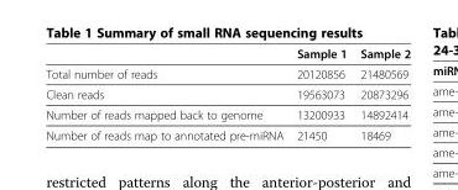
<table><thead><tr><td></td><td>Sample 1</td><td>Sample 2</td></tr></thead><tbody><tr><td>Total number of reads</td><td>20120856</td><td>21480569</td></tr><tr><td>Clean reads</td><td>19563073</td><td>20873296</td></tr><tr><td>Number of reads mapped back to genome</td><td>13200933</td><td>14892414</td></tr><tr><td>Number of reads map to annotated pre-miRNA</td><td>21450</td><td>18469</td></tr></tbody></table>